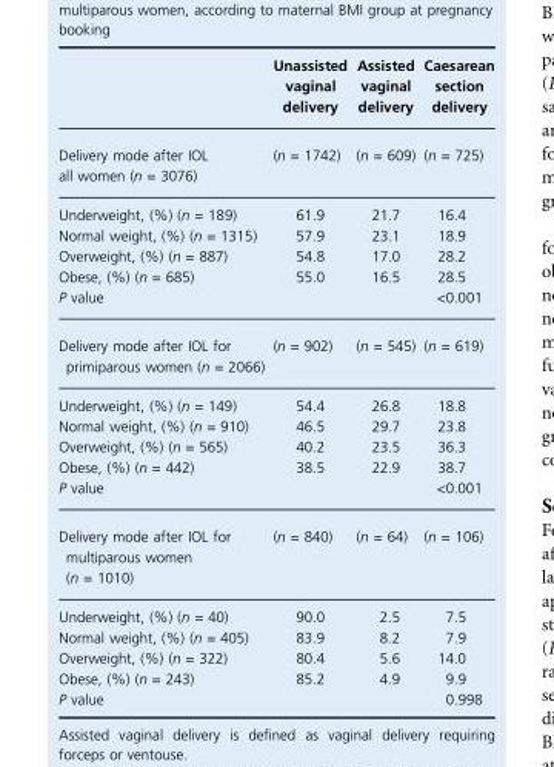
<table><thead><tr><td></td><td>Unassisted vaginal delivery</td><td>Assisted vaginal delivery</td><td>Caesarean section delivery</td></tr></thead><tbody><tr><td>Delivery mode after IOL all women (n = 3076)</td><td>(n = 1742)</td><td>(n = 609)</td><td>(n = 725)</td></tr><tr><td>Underweight, (%) (n = 189)</td><td>61.9</td><td>21.7</td><td>16.4</td></tr><tr><td>Normal weight, (%) (n = 1315)</td><td>57.9</td><td>23.1</td><td>18.9</td></tr><tr><td>Overweight, (%) (n = 887)</td><td>54.8</td><td>17.0</td><td>28.2</td></tr><tr><td>Obese, (%) (n = 685)</td><td>55.0</td><td>16.5</td><td>28.5</td></tr><tr><td>P value</td><td></td><td></td><td>&lt;0.001</td></tr><tr><td>Delivery mode after IOL for primiparous women (n = 2066)</td><td>(n = 902)</td><td>(n = 545)</td><td>(n = 619)</td></tr><tr><td>Underweight, (%) (n = 149)</td><td>54.4</td><td>26.8</td><td>18.8</td></tr><tr><td>Normal weight, (%) (n = 910)</td><td>46.5</td><td>29.7</td><td>23.8</td></tr><tr><td>Overweight, (%) (n = 565)</td><td>40.2</td><td>23.5</td><td>36.3</td></tr><tr><td>Obese, (%) (n = 442)</td><td>38.5</td><td>22.9</td><td>38.7</td></tr><tr><td>P value</td><td></td><td></td><td>&lt;0.001</td></tr><tr><td>Delivery mode after IOL for multiparous women (n = 1010)</td><td>(n = 840)</td><td>(n = 64)</td><td>(n = 106)</td></tr><tr><td>Underweight, (%) (n = 40)</td><td>90.0</td><td>2.5</td><td>7.5</td></tr><tr><td>Normal weight, (%) (n = 405)</td><td>83.9</td><td>8.2</td><td>7.9</td></tr><tr><td>Overweight, (%) (n = 322)</td><td>80.4</td><td>5.6</td><td>14.0</td></tr><tr><td>Obese, (%) (n = 243)</td><td>85.2</td><td>4.9</td><td>9.9</td></tr><tr><td>P value</td><td></td><td></td><td>0.998</td></tr></tbody></table>